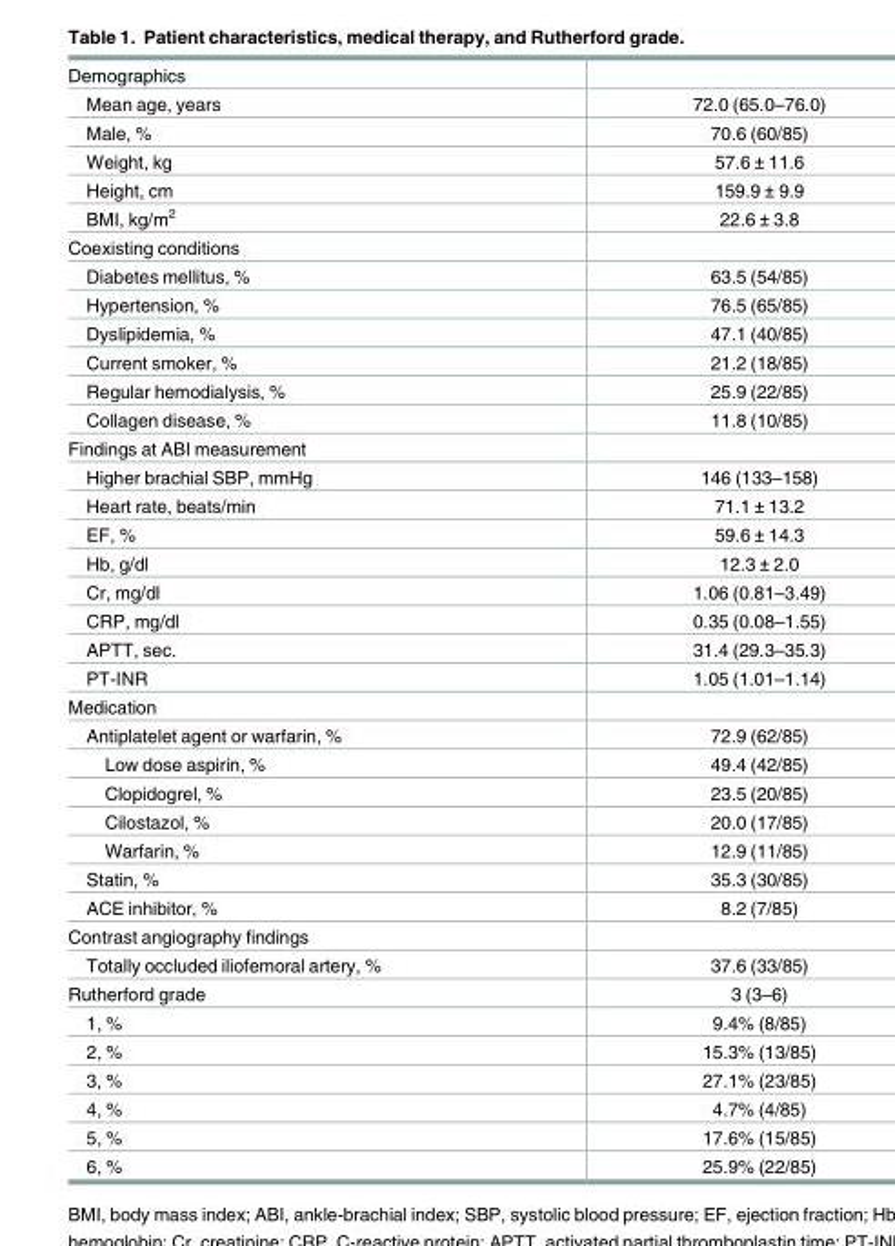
<table><tbody><tr><td colspan="2">Demographics</td></tr><tr><td>Mean age, years</td><td>72.0 (65.0–76.0)</td></tr><tr><td>Male, %</td><td>70.6 (60/85)</td></tr><tr><td>Weight, kg</td><td>57.6 ± 11.6</td></tr><tr><td>Height, cm</td><td>159.9 ± 9.9</td></tr><tr><td>BMI, kg/m<sup>2</sup></td><td>22.6 ± 3.8</td></tr><tr><td colspan="2">Coexisting conditions</td></tr><tr><td>Diabetes mellitus, %</td><td>63.5 (54/85)</td></tr><tr><td>Hypertension, %</td><td>76.5 (65/85)</td></tr><tr><td>Dyslipidemia, %</td><td>47.1 (40/85)</td></tr><tr><td>Current smoker, %</td><td>21.2 (18/85)</td></tr><tr><td>Regular hemodialysis, %</td><td>25.9 (22/85)</td></tr><tr><td>Collagen disease, %</td><td>11.8 (10/85)</td></tr><tr><td colspan="2">Findings at ABI measurement</td></tr><tr><td>Higher brachial SBP, mmHg</td><td>146 (133–158)</td></tr><tr><td>Heart rate, beats/min</td><td>71.1 ± 13.2</td></tr><tr><td>EF, %</td><td>59.6 ± 14.3</td></tr><tr><td>Hb, g/dl</td><td>12.3 ± 2.0</td></tr><tr><td>Cr, mg/dl</td><td>1.06 (0.81–3.49)</td></tr><tr><td>CRP, mg/dl</td><td>0.35 (0.08–1.55)</td></tr><tr><td>APTT, sec.</td><td>31.4 (29.3–35.3)</td></tr><tr><td>PT-INR</td><td>1.05 (1.01–1.14)</td></tr><tr><td colspan="2">Medication</td></tr><tr><td>Antiplatelet agent or warfarin, %</td><td>72.9 (62/85)</td></tr><tr><td>Low dose aspirin, %</td><td>49.4 (42/85)</td></tr><tr><td>Clopidogrel, %</td><td>23.5 (20/85)</td></tr><tr><td>Cilostazol, %</td><td>20.0 (17/85)</td></tr><tr><td>Warfarin, %</td><td>12.9 (11/85)</td></tr><tr><td>Statin, %</td><td>35.3 (30/85)</td></tr><tr><td>ACE inhibitor, %</td><td>8.2 (7/85)</td></tr><tr><td colspan="2">Contrast angiography findings</td></tr><tr><td>Totally occluded iliofemoral artery, %</td><td>37.6 (33/85)</td></tr><tr><td>Rutherford grade</td><td>3 (3–6)</td></tr><tr><td>1, %</td><td>9.4% (8/85)</td></tr><tr><td>2, %</td><td>15.3% (13/85)</td></tr><tr><td>3, %</td><td>27.1% (23/85)</td></tr><tr><td>4, %</td><td>4.7% (4/85)</td></tr><tr><td>5, %</td><td>17.6% (15/85)</td></tr><tr><td>6, %</td><td>25.9% (22/85)</td></tr></tbody></table>